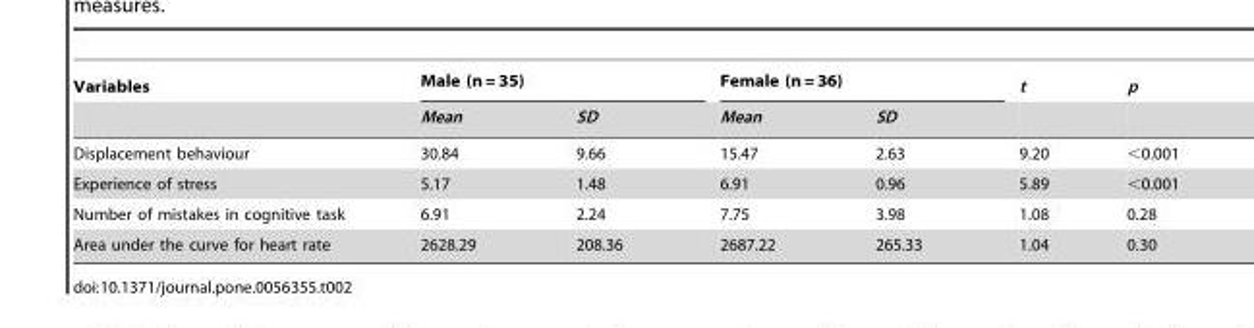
<table><thead><tr><td rowspan="2">Variables</td><td colspan="2">Male (n = 35)</td><td colspan="2">Female (n = 36)</td><td rowspan="2">t</td><td rowspan="2">p</td></tr><tr><td>Mean</td><td>SD</td><td>Mean</td><td>SD</td></tr></thead><tbody><tr><td>Displacement behaviour</td><td>30.84</td><td>9.66</td><td>15.47</td><td>2.63</td><td>9.20</td><td>&lt;0.001</td></tr><tr><td>Experience of stress</td><td>5.17</td><td>1.48</td><td>6.91</td><td>0.96</td><td>5.89</td><td>&lt;0.001</td></tr><tr><td>Number of mistakes in cognitive task</td><td>6.91</td><td>2.24</td><td>7.75</td><td>3.98</td><td>1.08</td><td>0.28</td></tr><tr><td>Area under the curve for heart rate</td><td>2628.29</td><td>208.36</td><td>2687.22</td><td>265.33</td><td>1.04</td><td>0.30</td></tr></tbody></table>